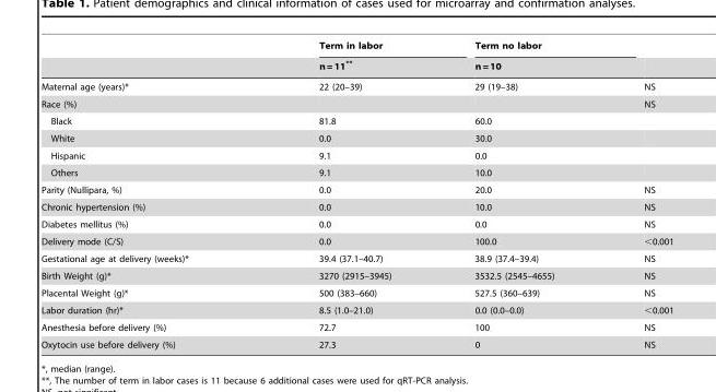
<table><thead><tr><td rowspan="2"></td><td rowspan="2">Term in labor n = 11**</td><td rowspan="2">Term no labor n = 10</td><td rowspan="2"></td></tr><tr></tr></thead><tbody><tr><td>Maternal age (years)*</td><td>22 (20–39)</td><td>29 (19–38)</td><td>NS</td></tr><tr><td>Race (%)</td><td></td><td></td><td>NS</td></tr><tr><td>Black</td><td>81.8</td><td>60.0</td><td></td></tr><tr><td>White</td><td>0.0</td><td>30.0</td><td></td></tr><tr><td>Hispanic</td><td>9.1</td><td>0.0</td><td></td></tr><tr><td>Others</td><td>9.1</td><td>10.0</td><td></td></tr><tr><td>Parity (Nullipara, %)</td><td>0.0</td><td>20.0</td><td>NS</td></tr><tr><td>Chronic hypertension (%)</td><td>0.0</td><td>10.0</td><td>NS</td></tr><tr><td>Diabetes mellitus (%)</td><td>0.0</td><td>0.0</td><td>NS</td></tr><tr><td>Delivery mode (C/S)</td><td>0.0</td><td>100.0</td><td>&lt;0.001</td></tr><tr><td>Gestational age at delivery (weeks)*</td><td>39.4 (37.1–40.7)</td><td>38.9 (37.4–39.4)</td><td>NS</td></tr><tr><td>Birth Weight (g)*</td><td>3270 (2915–3945)</td><td>3532.5 (2545–4655)</td><td>NS</td></tr><tr><td>Placental Weight (g)*</td><td>500 (383–660)</td><td>527.5 (360–639)</td><td>NS</td></tr><tr><td>Labor duration (hr)*</td><td>8.5 (1.0–21.0)</td><td>0.0 (0.0–0.0)</td><td>&lt;0.001</td></tr><tr><td>Anesthesia before delivery (%)</td><td>72.7</td><td>100</td><td>NS</td></tr><tr><td>Oxytocin use before delivery (%)</td><td>27.3</td><td>0</td><td>NS</td></tr></tbody></table>